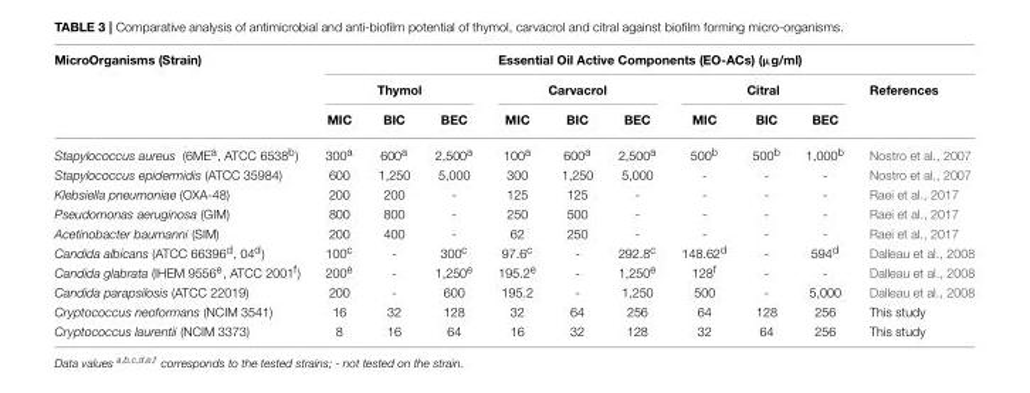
<table><thead><tr><td rowspan="3">MicroOrganisms (Strain)</td><td colspan="10">Essential Oil Active Components (EO-ACs) (µg/ml)</td></tr><tr><td colspan="3">Thymol</td><td colspan="3">Carvacrol</td><td colspan="3">Citral</td><td rowspan="2">References</td></tr><tr><td>MIC</td><td>BIC</td><td>BEC</td><td>MIC</td><td>BIC</td><td>BEC</td><td>MIC</td><td>BIC</td><td>BEC</td></tr></thead><tbody><tr><td>Stapylococcus aureus (6ME<sup>a</sup>, ATCC 6538<sup>b</sup>)</td><td>300<sup>a</sup></td><td>600<sup>a</sup></td><td>2,500<sup>a</sup></td><td>100<sup>a</sup></td><td>600<sup>a</sup></td><td>2,500<sup>a</sup></td><td>500<sup>b</sup></td><td>500<sup>b</sup></td><td>1,000<sup>b</sup></td><td>Nostro et al., 2007</td></tr><tr><td>Stapylococcus epidermidis (ATCC 35984)</td><td>600</td><td>1,250</td><td>5,000</td><td>300</td><td>1,250</td><td>5,000</td><td>-</td><td>-</td><td>-</td><td>Nostro et al., 2007</td></tr><tr><td>Klebsiella pneumoniae (OXA-48)</td><td>200</td><td>200</td><td>-</td><td>125</td><td>125</td><td>-</td><td>-</td><td>-</td><td>-</td><td>Raei et al., 2017</td></tr><tr><td>Pseudomonas aeruginosa (GIM)</td><td>800</td><td>800</td><td>-</td><td>250</td><td>500</td><td>-</td><td>-</td><td>-</td><td>-</td><td>Raei et al., 2017</td></tr><tr><td>Acetinobacter baumanni (SIM)</td><td>200</td><td>400</td><td>-</td><td>62</td><td>250</td><td>-</td><td>-</td><td>-</td><td>-</td><td>Raei et al., 2017</td></tr><tr><td>Candida albicans (ATCC 66396<sup>d</sup>, 04<sup>d</sup>)</td><td>100<sup>c</sup></td><td>-</td><td>300<sup>c</sup></td><td>97.6<sup>c</sup></td><td>-</td><td>292.8<sup>c</sup></td><td>148.62<sup>d</sup></td><td>-</td><td>594<sup>d</sup></td><td>Dalleau et al., 2008</td></tr><tr><td>Candida glabrata (IHEM 9556<sup>e</sup>, ATCC 2001<sup>f</sup>)</td><td>200<sup>e</sup></td><td>-</td><td>1,250<sup>e</sup></td><td>195.2<sup>e</sup></td><td>-</td><td>1,250<sup>e</sup></td><td>128<sup>f</sup></td><td>-</td><td>-</td><td>Dalleau et al., 2008</td></tr><tr><td>Candida parapsilosis (ATCC 22019)</td><td>200</td><td>-</td><td>600</td><td>195.2</td><td>-</td><td>1,250</td><td>500</td><td>-</td><td>5,000</td><td>Dalleau et al., 2008</td></tr><tr><td>Cryptococcus neoformans (NCIM 3541)</td><td>16</td><td>32</td><td>128</td><td>32</td><td>64</td><td>256</td><td>64</td><td>128</td><td>256</td><td>This study</td></tr><tr><td>Cryptococcus laurentii (NCIM 3373)</td><td>8</td><td>16</td><td>64</td><td>16</td><td>32</td><td>128</td><td>32</td><td>64</td><td>256</td><td>This study</td></tr></tbody></table>